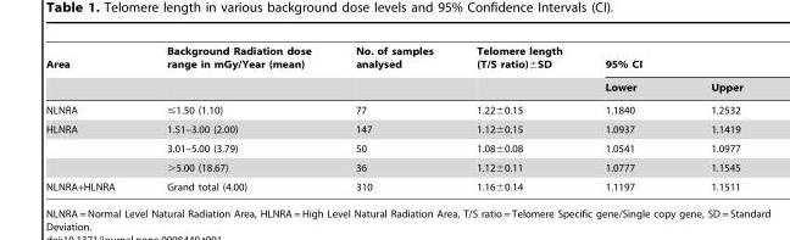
<table><thead><tr><td rowspan="2">Area</td><td rowspan="2">Background Radiation dose range in mGy/Year (mean)</td><td rowspan="2">No. of samples analysed</td><td rowspan="2">Telomere length (T/S ratio)±SD</td><td colspan="2">95% CI</td></tr><tr><td>Lower</td><td>Upper</td></tr></thead><tbody><tr><td>NLNRA</td><td>≤1.50 (1.10)</td><td>77</td><td>1.22±0.15</td><td>1.1840</td><td>1.2532</td></tr><tr><td rowspan="3">HLNRA</td><td>1.51–3.00 (2.00)</td><td>147</td><td>1.12±0.15</td><td>1.0937</td><td>1.1419</td></tr><tr><td>3.01–5.00 (3.79)</td><td>50</td><td>1.08±0.08</td><td>1.0541</td><td>1.0977</td></tr><tr><td>&gt;5.00 (18.67)</td><td>36</td><td>1.12±0.11</td><td>1.0777</td><td>1.1545</td></tr><tr><td>NLNRA+HLNRA</td><td>Grand total (4.00)</td><td>310</td><td>1.16±0.14</td><td>1.1197</td><td>1.1511</td></tr></tbody></table>